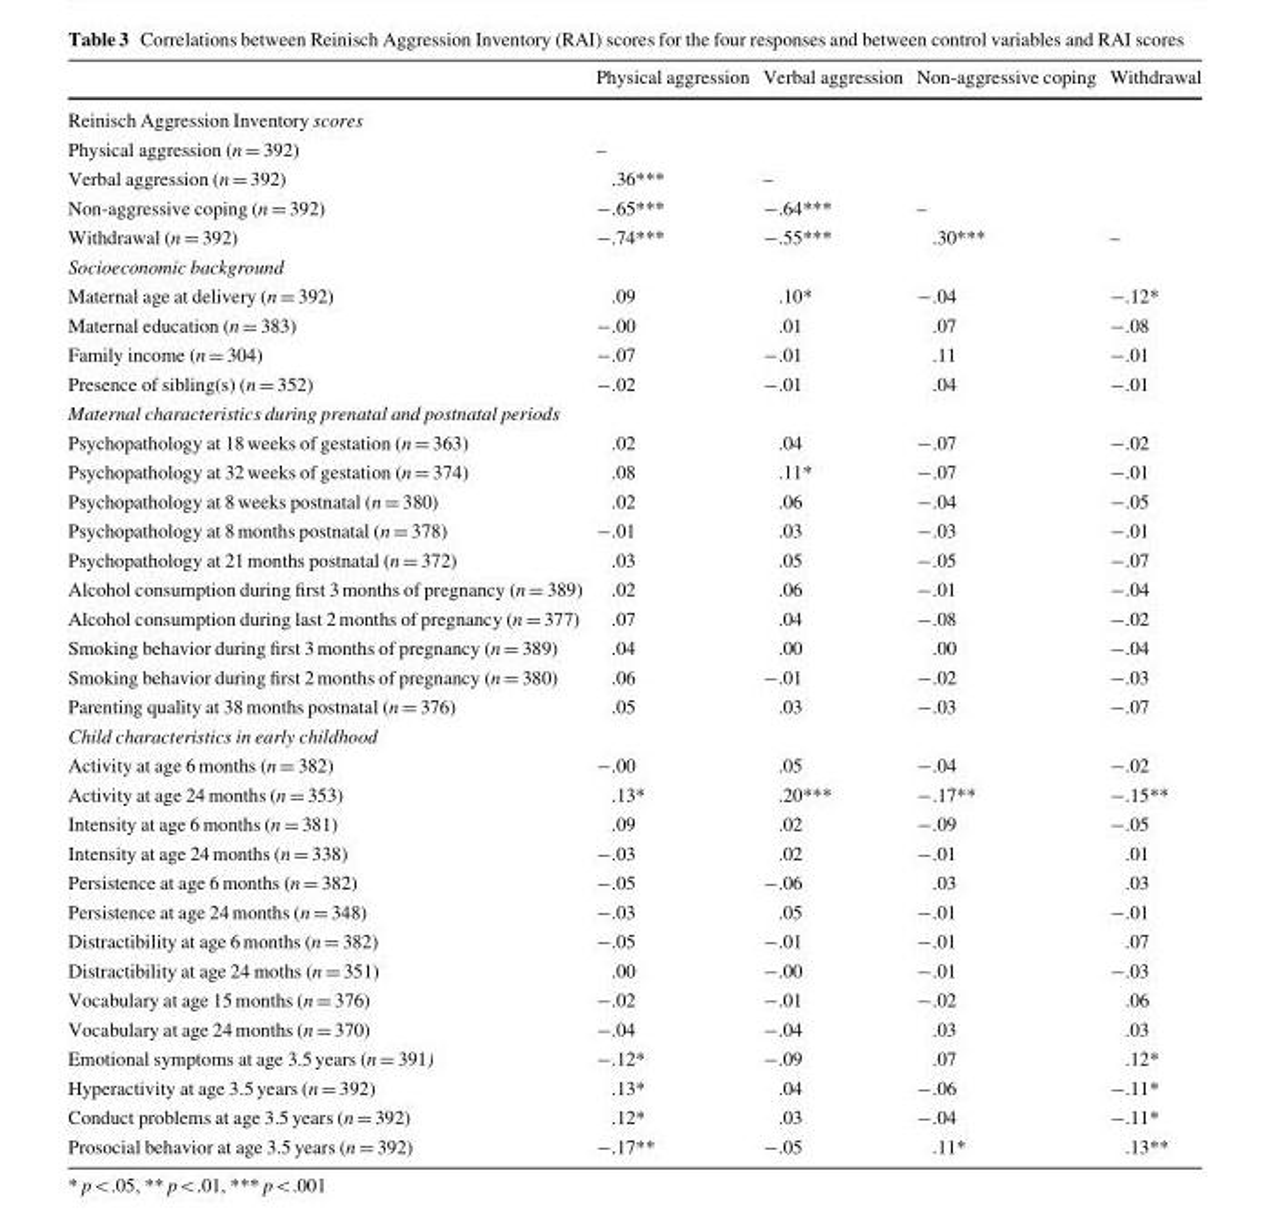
<table><thead><tr><td></td><td>Physical aggression</td><td>Verbal aggression</td><td>Non-aggressive coping</td><td>Withdrawal</td></tr></thead><tbody><tr><td colspan="5">Reinisch Aggression Inventory scores</td></tr><tr><td>Physical aggression (n = 392)</td><td>–</td><td></td><td></td><td></td></tr><tr><td>Verbal aggression (n = 392)</td><td>.36***</td><td>–</td><td></td><td></td></tr><tr><td>Non-aggressive coping (n = 392)</td><td>-.65***</td><td>-.64***</td><td>–</td><td></td></tr><tr><td>Withdrawal (n = 392)</td><td>-.74***</td><td>-.55***</td><td>.30***</td><td>–</td></tr><tr><td colspan="5">Socioeconomic background</td></tr><tr><td>Maternal age at delivery (n = 392)</td><td>.09</td><td>.10*</td><td>-.04</td><td>-.12*</td></tr><tr><td>Maternal education (n = 383)</td><td>-.00</td><td>.01</td><td>.07</td><td>-.08</td></tr><tr><td>Family income (n = 304)</td><td>-.07</td><td>-.01</td><td>.11</td><td>-.01</td></tr><tr><td>Presence of sibling(s) (n = 352)</td><td>-.02</td><td>-.01</td><td>.04</td><td>-.01</td></tr><tr><td colspan="5">Maternal characteristics during prenatal and postnatal periods</td></tr><tr><td>Psychopathology at 18 weeks of gestation (n = 363)</td><td>.02</td><td>.04</td><td>-.07</td><td>-.02</td></tr><tr><td>Psychopathology at 32 weeks of gestation (n = 374)</td><td>.08</td><td>.11*</td><td>-.07</td><td>-.01</td></tr><tr><td>Psychopathology at 8 weeks postnatal (n = 380)</td><td>.02</td><td>.06</td><td>-.04</td><td>-.05</td></tr><tr><td>Psychopathology at 8 months postnatal (n = 378)</td><td>-.01</td><td>.03</td><td>-.03</td><td>-.01</td></tr><tr><td>Psychopathology at 21 months postnatal (n = 372)</td><td>.03</td><td>.05</td><td>-.05</td><td>-.07</td></tr><tr><td>Alcohol consumption during first 3 months of pregnancy (n = 389)</td><td>.02</td><td>.06</td><td>-.01</td><td>-.04</td></tr><tr><td>Alcohol consumption during last 2 months of pregnancy (n = 377)</td><td>.07</td><td>.04</td><td>-.08</td><td>-.02</td></tr><tr><td>Smoking behavior during first 3 months of pregnancy (n = 389)</td><td>.04</td><td>.00</td><td>.00</td><td>-.04</td></tr><tr><td>Smoking behavior during first 2 months of pregnancy (n = 380)</td><td>.06</td><td>-.01</td><td>-.02</td><td>-.03</td></tr><tr><td>Parenting quality at 38 months postnatal (n = 376)</td><td>.05</td><td>.03</td><td>-.03</td><td>-.07</td></tr><tr><td colspan="5">Child characteristics in early childhood</td></tr><tr><td>Activity at age 6 months (n = 382)</td><td>-.00</td><td>.05</td><td>-.04</td><td>-.02</td></tr><tr><td>Activity at age 24 months (n = 353)</td><td>.13*</td><td>.20***</td><td>-.17**</td><td>-.15**</td></tr><tr><td>Intensity at age 6 months (n = 381)</td><td>.09</td><td>.02</td><td>-.09</td><td>-.05</td></tr><tr><td>Intensity at age 24 months (n = 338)</td><td>-.03</td><td>.02</td><td>-.01</td><td>.01</td></tr><tr><td>Persistence at age 6 months (n = 382)</td><td>-.05</td><td>-.06</td><td>.03</td><td>.03</td></tr><tr><td>Persistence at age 24 months (n = 348)</td><td>-.03</td><td>.05</td><td>-.01</td><td>-.01</td></tr><tr><td>Distractibility at age 6 months (n = 382)</td><td>-.05</td><td>-.01</td><td>-.01</td><td>.07</td></tr><tr><td>Distractibility at age 24 moths (n = 351)</td><td>.00</td><td>-.00</td><td>-.01</td><td>-.03</td></tr><tr><td>Vocabulary at age 15 months (n = 376)</td><td>-.02</td><td>-.01</td><td>-.02</td><td>.06</td></tr><tr><td>Vocabulary at age 24 months (n = 370)</td><td>-.04</td><td>-.04</td><td>.03</td><td>.03</td></tr><tr><td>Emotional symptoms at age 3.5 years (n = 391)</td><td>-.12*</td><td>-.09</td><td>.07</td><td>.12*</td></tr><tr><td>Hyperactivity at age 3.5 years (n = 392)</td><td>.13*</td><td>.04</td><td>-.06</td><td>-.11*</td></tr><tr><td>Conduct problems at age 3.5 years (n = 392)</td><td>.12*</td><td>.03</td><td>-.04</td><td>-.11*</td></tr><tr><td>Prosocial behavior at age 3.5 years (n = 392)</td><td>-.17**</td><td>-.05</td><td>.11*</td><td>.13**</td></tr></tbody></table>